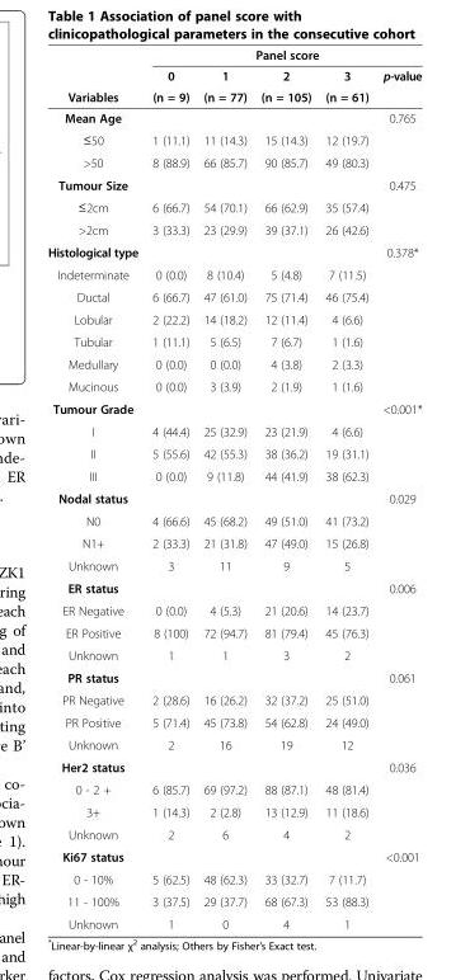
<table><thead><tr><td rowspan="3">Variables</td><td colspan="5">Panel score</td></tr><tr><td rowspan="2">0 (n = 9)</td><td rowspan="2">1 (n = 77)</td><td rowspan="2">2 (n = 105)</td><td rowspan="2">3 (n = 61)</td><td rowspan="2">p-value</td></tr><tr></tr></thead><tbody><tr><td>Mean Age</td><td></td><td></td><td></td><td></td><td>0.765</td></tr><tr><td>≤50</td><td>1 (11.1)</td><td>11 (14.3)</td><td>15 (14.3)</td><td>12 (19.7)</td><td></td></tr><tr><td>&gt;50</td><td>8 (88.9)</td><td>66 (85.7)</td><td>90 (85.7)</td><td>49 (80.3)</td><td></td></tr><tr><td>Tumour Size</td><td></td><td></td><td></td><td></td><td>0.475</td></tr><tr><td>≤2cm</td><td>6 (66.7)</td><td>54 (70.1)</td><td>66 (62.9)</td><td>35 (57.4)</td><td></td></tr><tr><td>&gt;2cm</td><td>3 (33.3)</td><td>23 (29.9)</td><td>39 (37.1)</td><td>26 (42.6)</td><td></td></tr><tr><td>Histological type</td><td></td><td></td><td></td><td></td><td>0.378*</td></tr><tr><td>Indeterminate</td><td>0 (0.0)</td><td>8 (10.4)</td><td>5 (4.8)</td><td>7 (11.5)</td><td></td></tr><tr><td>Ductal</td><td>6 (66.7)</td><td>47 (61.0)</td><td>75 (71.4)</td><td>46 (75.4)</td><td></td></tr><tr><td>Lobular</td><td>2 (22.2)</td><td>14 (18.2)</td><td>12 (11.4)</td><td>4 (6.6)</td><td></td></tr><tr><td>Tubular</td><td>1 (11.1)</td><td>5 (6.5)</td><td>7 (6.7)</td><td>1 (1.6)</td><td></td></tr><tr><td>Medullary</td><td>0 (0.0)</td><td>0 (0.0)</td><td>4 (3.8)</td><td>2 (3.3)</td><td></td></tr><tr><td>Mucinous</td><td>0 (0.0)</td><td>3 (3.9)</td><td>2 (1.9)</td><td>1 (1.6)</td><td></td></tr><tr><td>Tumour Grade</td><td></td><td></td><td></td><td></td><td>&lt;0.001*</td></tr><tr><td>I</td><td>4 (44.4)</td><td>25 (32.9)</td><td>23 (21.9)</td><td>4 (6.6)</td><td></td></tr><tr><td>II</td><td>5 (55.6)</td><td>42 (55.3)</td><td>38 (36.2)</td><td>19 (31.1)</td><td></td></tr><tr><td>III</td><td>0 (0.0)</td><td>9 (11.8)</td><td>44 (41.9)</td><td>38 (62.3)</td><td></td></tr><tr><td>Nodal status</td><td></td><td></td><td></td><td></td><td>0.029</td></tr><tr><td>N0</td><td>4 (66.6)</td><td>45 (68.2)</td><td>49 (51.0)</td><td>41 (73.2)</td><td></td></tr><tr><td>N1+</td><td>2 (33.3)</td><td>21 (31.8)</td><td>47 (49.0)</td><td>15 (26.8)</td><td></td></tr><tr><td>Unknown</td><td>3</td><td>11</td><td>9</td><td>5</td><td></td></tr><tr><td>ER status</td><td></td><td></td><td></td><td></td><td>0.006</td></tr><tr><td>ER Negative</td><td>0 (0.0)</td><td>4 (5.3)</td><td>21 (20.6)</td><td>14 (23.7)</td><td></td></tr><tr><td>ER Positive</td><td>8 (100)</td><td>72 (94.7)</td><td>81 (79.4)</td><td>45 (76.3)</td><td></td></tr><tr><td>Unknown</td><td>1</td><td>1</td><td>3</td><td>2</td><td></td></tr><tr><td>PR status</td><td></td><td></td><td></td><td></td><td>0.061</td></tr><tr><td>PR Negative</td><td>2 (28.6)</td><td>16 (26.2)</td><td>32 (37.2)</td><td>25 (51.0)</td><td></td></tr><tr><td>PR Positive</td><td>5 (71.4)</td><td>45 (73.8)</td><td>54 (62.8)</td><td>24 (49.0)</td><td></td></tr><tr><td>Unknown</td><td>2</td><td>16</td><td>19</td><td>12</td><td></td></tr><tr><td>Her2 status</td><td></td><td></td><td></td><td></td><td>0.036</td></tr><tr><td>0 - 2 +</td><td>6 (85.7)</td><td>69 (97.2)</td><td>88 (87.1)</td><td>48 (81.4)</td><td></td></tr><tr><td>3+</td><td>1 (14.3)</td><td>2 (2.8)</td><td>13 (12.9)</td><td>11 (18.6)</td><td></td></tr><tr><td>Unknown</td><td>2</td><td>6</td><td>4</td><td>2</td><td></td></tr><tr><td>Ki67 status</td><td></td><td></td><td></td><td></td><td>&lt;0.001</td></tr><tr><td>0 - 10%</td><td>5 (62.5)</td><td>48 (62.3)</td><td>33 (32.7)</td><td>7 (11.7)</td><td></td></tr><tr><td>11 - 100%</td><td>3 (37.5)</td><td>29 (37.7)</td><td>68 (67.3)</td><td>53 (88.3)</td><td></td></tr><tr><td>Unknown</td><td>1</td><td>0</td><td>4</td><td>1</td><td></td></tr></tbody></table>